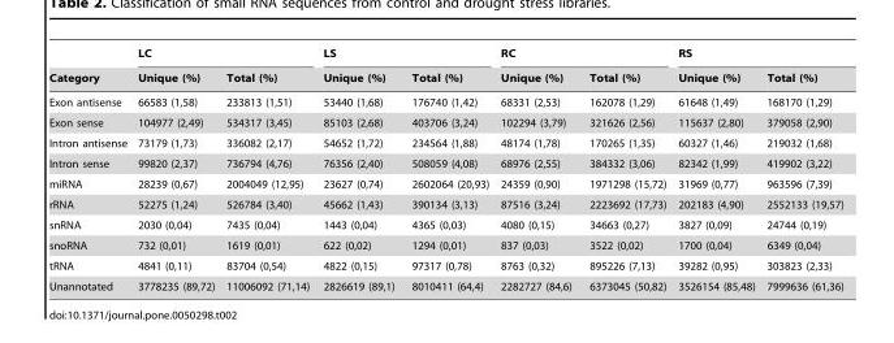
<table><thead><tr><td rowspan="2">Category</td><td colspan="2">LC</td><td colspan="2">LS</td><td colspan="2">RC</td><td colspan="2">RS</td></tr><tr><td>Unique (%)</td><td>Total (%)</td><td>Unique (%)</td><td>Total (%)</td><td>Unique (%)</td><td>Total (%)</td><td>Unique (%)</td><td>Total (%)</td></tr></thead><tbody><tr><td>Exon antisense</td><td>66583 (1,58)</td><td>233813 (1,51)</td><td>53440 (1,68)</td><td>176740 (1,42)</td><td>68331 (2,53)</td><td>162078 (1,29)</td><td>61648 (1,49)</td><td>168170 (1,29)</td></tr><tr><td>Exon sense</td><td>104977 (2,49)</td><td>534317 (3,45)</td><td>85103 (2,68)</td><td>403706 (3,24)</td><td>102294 (3,79)</td><td>321626 (2,56)</td><td>115637 (2,80)</td><td>379058 (2,90)</td></tr><tr><td>Intron antisense</td><td>73179 (1,73)</td><td>336082 (2,17)</td><td>54652 (1,72)</td><td>234564 (1,88)</td><td>48174 (1,78)</td><td>170265 (1,35)</td><td>60327 (1,46)</td><td>219032 (1,68)</td></tr><tr><td>Intron sense</td><td>99820 (2,37)</td><td>736794 (4,76)</td><td>76356 (2,40)</td><td>508059 (4,08)</td><td>68976 (2,55)</td><td>384332 (3,06)</td><td>82342 (1,99)</td><td>419902 (3,22)</td></tr><tr><td>miRNA</td><td>28239 (0,67)</td><td>2004049 (12,95)</td><td>23627 (0,74)</td><td>2602064 (20,93)</td><td>24359 (0,90)</td><td>1971298 (15,72)</td><td>31969 (0,77)</td><td>963596 (7,39)</td></tr><tr><td>rRNA</td><td>52275 (1,24)</td><td>526784 (3,40)</td><td>45662 (1,43)</td><td>390134 (3,13)</td><td>87516 (3,24)</td><td>2223692 (17,73)</td><td>202183 (4,90)</td><td>2552133 (19,57)</td></tr><tr><td>snRNA</td><td>2030 (0,04)</td><td>7435 (0,04)</td><td>1443 (0,04)</td><td>4365 (0,03)</td><td>4080 (0,15)</td><td>34663 (0,27)</td><td>3827 (0,09)</td><td>24744 (0,19)</td></tr><tr><td>snoRNA</td><td>732 (0,01)</td><td>1619 (0,01)</td><td>622 (0,02)</td><td>1294 (0,01)</td><td>837 (0,03)</td><td>3522 (0,02)</td><td>1700 (0,04)</td><td>6349 (0,04)</td></tr><tr><td>tRNA</td><td>4841 (0,11)</td><td>83704 (0,54)</td><td>4822 (0,15)</td><td>97317 (0,78)</td><td>8763 (0,32)</td><td>895226 (7,13)</td><td>39282 (0,95)</td><td>303823 (2,33)</td></tr><tr><td>Unannotated</td><td>3778235 (89,72)</td><td>11006092 (71,14)</td><td>2826619 (89,1)</td><td>8010411 (64,4)</td><td>2282727 (84,6)</td><td>6373045 (50,82)</td><td>3526154 (85,48)</td><td>7999636 (61,36)</td></tr></tbody></table>